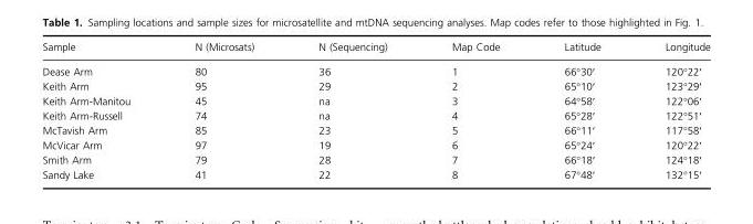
<table><thead><tr><td>Sample</td><td>N (Microsats)</td><td>N (Sequencing)</td><td>Map Code</td><td>Latitude</td><td>Longitude</td></tr></thead><tbody><tr><td>Dease Arm</td><td>80</td><td>36</td><td>1</td><td>66°30′</td><td>120°22′</td></tr><tr><td>Keith Arm</td><td>95</td><td>29</td><td>2</td><td>65°10′</td><td>123°29′</td></tr><tr><td>Keith Arm-Manitou</td><td>45</td><td>na</td><td>3</td><td>64°58′</td><td>122°06′</td></tr><tr><td>Keith Arm-Russell</td><td>74</td><td>na</td><td>4</td><td>65°28′</td><td>122°51′</td></tr><tr><td>McTavish Arm</td><td>85</td><td>23</td><td>5</td><td>66°11′</td><td>117°58′</td></tr><tr><td>McVicar Arm</td><td>97</td><td>19</td><td>6</td><td>65°24′</td><td>120°22′</td></tr><tr><td>Smith Arm</td><td>79</td><td>28</td><td>7</td><td>66°18′</td><td>124°18′</td></tr><tr><td>Sandy Lake</td><td>41</td><td>22</td><td>8</td><td>67°48′</td><td>132°15′</td></tr></tbody></table>